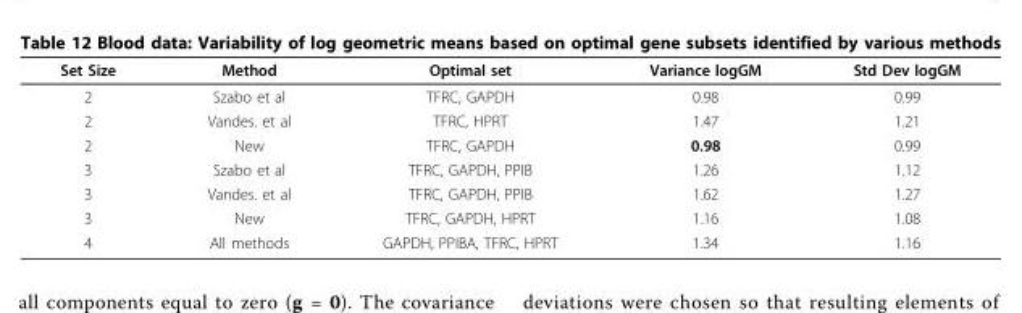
<table><thead><tr><td>Set Size</td><td>Method</td><td>Optimal set</td><td>Variance logGM</td><td>Std Dev logGM</td></tr></thead><tbody><tr><td>2</td><td>Szabo et al</td><td>TFRC, GAPDH</td><td>0.98</td><td>0.99</td></tr><tr><td>2</td><td>Vandes. et al</td><td>TFRC, HPRT</td><td>1.47</td><td>1.21</td></tr><tr><td>2</td><td>New</td><td>TFRC, GAPDH</td><td>0.98</td><td>0.99</td></tr><tr><td>3</td><td>Szabo et al</td><td>TFRC, GAPDH, PPIB</td><td>1.26</td><td>1.12</td></tr><tr><td>3</td><td>Vandes. et al</td><td>TFRC, GAPDH, PPIB</td><td>1.62</td><td>1.27</td></tr><tr><td>3</td><td>New</td><td>TFRC, GAPDH, HPRT</td><td>1.16</td><td>1.08</td></tr><tr><td>4</td><td>All methods</td><td>GAPDH, PPIBA, TFRC, HPRT</td><td>1.34</td><td>1.16</td></tr></tbody></table>